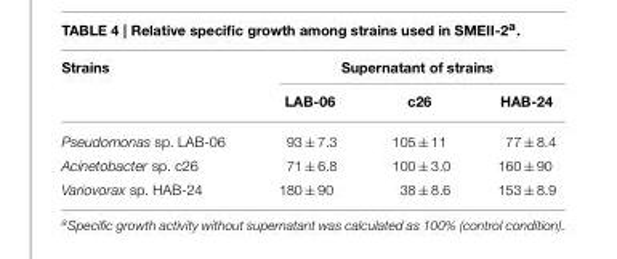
<table><thead><tr><td rowspan="2">Strains</td><td colspan="3">Supernatant of strains</td></tr><tr><td>LAB-06</td><td>c26</td><td>HAB-24</td></tr></thead><tbody><tr><td>Pseudomonas sp. LAB-06</td><td>93 ± 7.3</td><td>105 ± 11</td><td>77 ± 8.4</td></tr><tr><td>Acinetobacter sp. c26</td><td>71 ± 6.8</td><td>100 ± 3.0</td><td>160 ± 90</td></tr><tr><td>Variovorax sp. HAB-24</td><td>180 ± 90</td><td>38 ± 8.6</td><td>153 ± 8.9</td></tr></tbody></table>